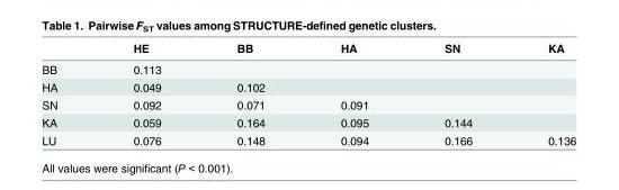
<table><thead><tr><td></td><td>HE</td><td>BB</td><td>HA</td><td>SN</td><td>KA</td></tr></thead><tbody><tr><td>BB</td><td>0.113</td><td></td><td></td><td></td><td></td></tr><tr><td>HA</td><td>0.049</td><td>0.102</td><td></td><td></td><td></td></tr><tr><td>SN</td><td>0.092</td><td>0.071</td><td>0.091</td><td></td><td></td></tr><tr><td>KA</td><td>0.059</td><td>0.164</td><td>0.095</td><td>0.144</td><td></td></tr><tr><td>LU</td><td>0.076</td><td>0.148</td><td>0.094</td><td>0.166</td><td>0.136</td></tr></tbody></table>